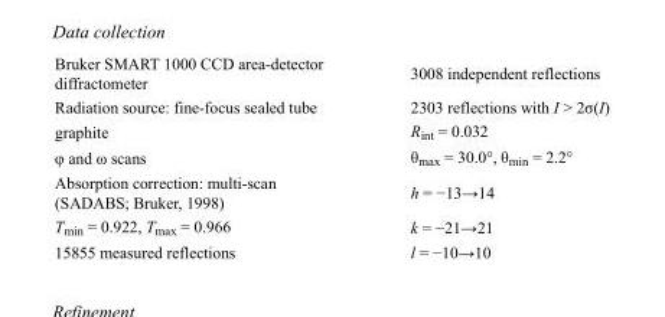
<table><tbody><tr><td>Bruker SMART 1000 CCD area-detector diffractometer</td><td>3008 independent reflections</td></tr><tr><td>Radiation source: fine-focus sealed tube</td><td>2303 reflections with I &gt; 2σ(I)</td></tr><tr><td>graphite</td><td>R<sub>int</sub> = 0.032</td></tr><tr><td>φ and ω scans</td><td>θ<sub>max</sub> = 30.0°, θ<sub>min</sub> = 2.2°</td></tr><tr><td>Absorption correction: multi-scan (SADABS; Bruker, 1998)</td><td>h = −13→14</td></tr><tr><td>T<sub>min</sub> = 0.922, T<sub>max</sub> = 0.966</td><td>k = −21→21</td></tr><tr><td>15855 measured reflections</td><td>l = −10→10</td></tr></tbody></table>